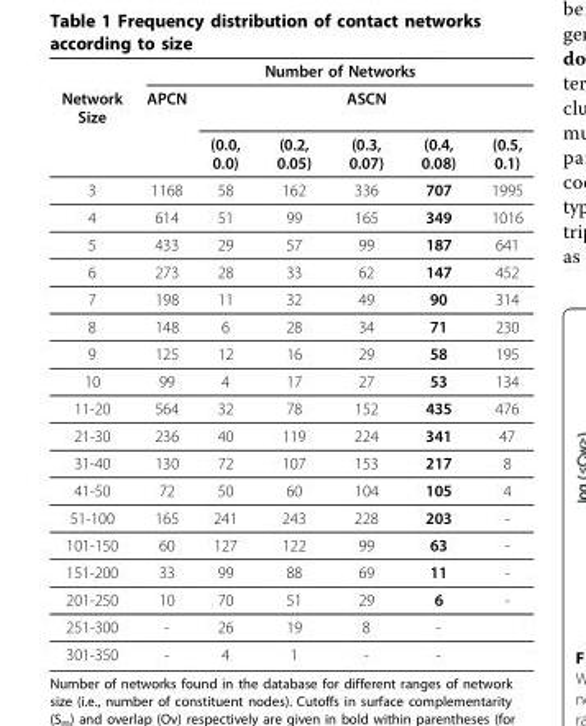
<table><thead><tr><td rowspan="3">Network Size</td><td colspan="6">Number of Networks</td></tr><tr><td rowspan="2">APCN</td><td colspan="5">ASCN</td></tr><tr><td>(0.0, 0.0)</td><td>(0.2, 0.05)</td><td>(0.3, 0.07)</td><td>(0.4, 0.08)</td><td>(0.5, 0.1)</td></tr></thead><tbody><tr><td>3</td><td>1168</td><td>58</td><td>162</td><td>336</td><td>707</td><td>1995</td></tr><tr><td>4</td><td>614</td><td>51</td><td>99</td><td>165</td><td>349</td><td>1016</td></tr><tr><td>5</td><td>433</td><td>29</td><td>57</td><td>99</td><td>187</td><td>641</td></tr><tr><td>6</td><td>273</td><td>28</td><td>33</td><td>62</td><td>147</td><td>452</td></tr><tr><td>7</td><td>198</td><td>11</td><td>32</td><td>49</td><td>90</td><td>314</td></tr><tr><td>8</td><td>148</td><td>6</td><td>28</td><td>34</td><td>71</td><td>230</td></tr><tr><td>9</td><td>125</td><td>12</td><td>16</td><td>29</td><td>58</td><td>195</td></tr><tr><td>10</td><td>99</td><td>4</td><td>17</td><td>27</td><td>53</td><td>134</td></tr><tr><td>11-20</td><td>564</td><td>32</td><td>78</td><td>152</td><td>435</td><td>476</td></tr><tr><td>21-30</td><td>236</td><td>40</td><td>119</td><td>224</td><td>341</td><td>47</td></tr><tr><td>31-40</td><td>130</td><td>72</td><td>107</td><td>153</td><td>217</td><td>8</td></tr><tr><td>41-50</td><td>72</td><td>50</td><td>60</td><td>104</td><td>105</td><td>4</td></tr><tr><td>51-100</td><td>165</td><td>241</td><td>243</td><td>228</td><td>203</td><td>-</td></tr><tr><td>101-150</td><td>60</td><td>127</td><td>122</td><td>99</td><td>63</td><td>-</td></tr><tr><td>151-200</td><td>33</td><td>99</td><td>88</td><td>69</td><td>11</td><td>-</td></tr><tr><td>201-250</td><td>10</td><td>70</td><td>51</td><td>29</td><td>6</td><td>-</td></tr><tr><td>251-300</td><td>-</td><td>26</td><td>19</td><td>8</td><td>-</td><td></td></tr><tr><td>301-350</td><td>-</td><td>4</td><td>1</td><td>-</td><td>-</td><td></td></tr></tbody></table>